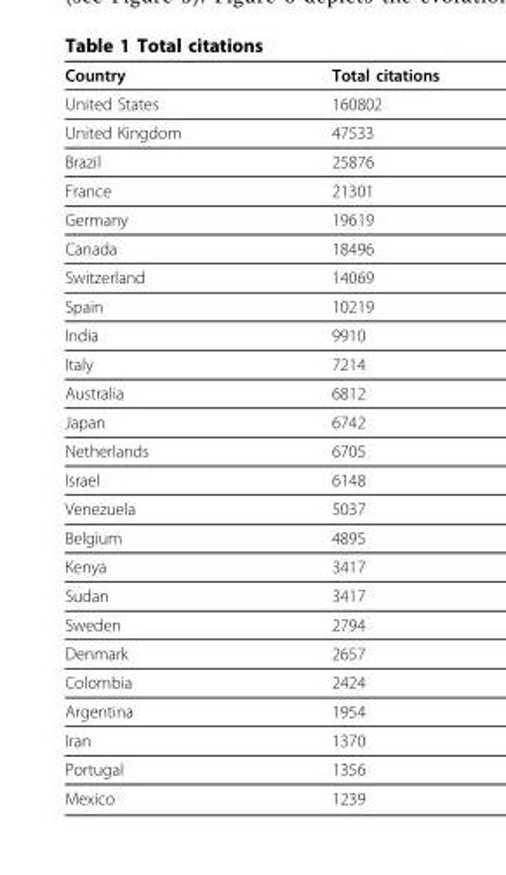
<table><thead><tr><td>Country</td><td>Total citations</td></tr></thead><tbody><tr><td>United States</td><td>160802</td></tr><tr><td>United Kingdom</td><td>47533</td></tr><tr><td>Brazil</td><td>25876</td></tr><tr><td>France</td><td>21301</td></tr><tr><td>Germany</td><td>19619</td></tr><tr><td>Canada</td><td>18496</td></tr><tr><td>Switzerland</td><td>14069</td></tr><tr><td>Spain</td><td>10219</td></tr><tr><td>India</td><td>9910</td></tr><tr><td>Italy</td><td>7214</td></tr><tr><td>Australia</td><td>6812</td></tr><tr><td>Japan</td><td>6742</td></tr><tr><td>Netherlands</td><td>6705</td></tr><tr><td>Israel</td><td>6148</td></tr><tr><td>Venezuela</td><td>5037</td></tr><tr><td>Belgium</td><td>4895</td></tr><tr><td>Kenya</td><td>3417</td></tr><tr><td>Sudan</td><td>3417</td></tr><tr><td>Sweden</td><td>2794</td></tr><tr><td>Denmark</td><td>2657</td></tr><tr><td>Colombia</td><td>2424</td></tr><tr><td>Argentina</td><td>1954</td></tr><tr><td>Iran</td><td>1370</td></tr><tr><td>Portugal</td><td>1356</td></tr><tr><td>Mexico</td><td>1239</td></tr></tbody></table>